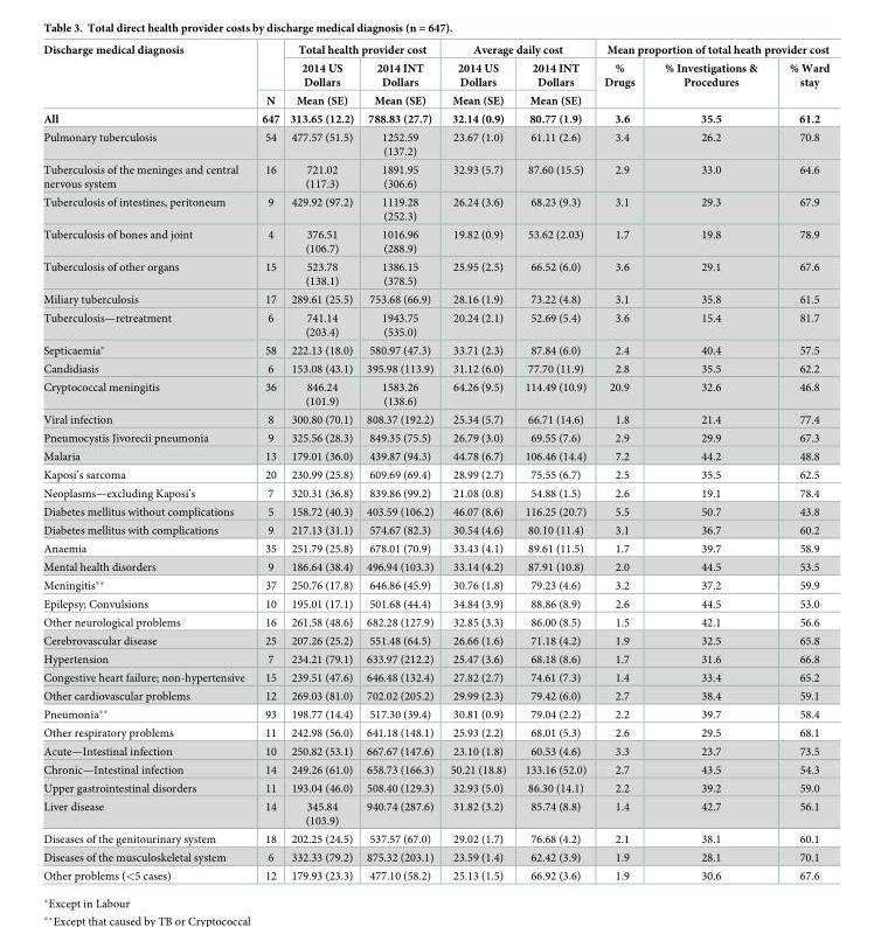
<table><thead><tr><td rowspan="3">Discharge medical diagnosis</td><td rowspan="3">N</td><td colspan="2">Total health provider cost</td><td colspan="2">Average daily cost</td><td colspan="3">Mean proportion of total heath provider cost</td></tr><tr><td rowspan="2">2014 US Dollars Mean (SE)</td><td rowspan="2">2014 INT Dollars Mean (SE)</td><td rowspan="2">2014 US Dollars Mean (SE)</td><td rowspan="2">2014 INT Dollars Mean (SE)</td><td rowspan="2">% Drugs</td><td rowspan="2">% Investigations &amp; Procedures</td><td rowspan="2">% Ward stay</td></tr><tr></tr></thead><tbody><tr><td>All</td><td>647</td><td>313.65 (12.2)</td><td>788.83 (27.7)</td><td>32.14 (0.9)</td><td>80.77 (1.9)</td><td>3.6</td><td>35.5</td><td>61.2</td></tr><tr><td>Pulmonary tuberculosis</td><td>54</td><td>477.57 (51.5)</td><td>1252.59 (137.2)</td><td>23.67 (1.0)</td><td>61.11 (2.6)</td><td>3.4</td><td>26.2</td><td>70.8</td></tr><tr><td>Tuberculosis of the meninges and central nervous system</td><td>16</td><td>721.02 (117.3)</td><td>1891.95 (306.6)</td><td>32.93 (5.7)</td><td>87.60 (15.5)</td><td>2.9</td><td>33.0</td><td>64.6</td></tr><tr><td>Tuberculosis of intestines, peritoneum</td><td>9</td><td>429.92 (97.2)</td><td>1119.28 (252.3)</td><td>26.24 (3.6)</td><td>68.23 (9.3)</td><td>3.1</td><td>29.3</td><td>67.9</td></tr><tr><td>Tuberculosis of bones and joint</td><td>4</td><td>376.51 (106.7)</td><td>1016.96 (288.9)</td><td>19.82 (0.9)</td><td>53.62 (2.03)</td><td>1.7</td><td>19.8</td><td>78.9</td></tr><tr><td>Tuberculosis of other organs</td><td>15</td><td>523.78 (138.1)</td><td>1386.15 (378.5)</td><td>25.95 (2.5)</td><td>66.52 (6.0)</td><td>3.6</td><td>29.1</td><td>67.6</td></tr><tr><td>Miliary tuberculosis</td><td>17</td><td>289.61 (25.5)</td><td>753.68 (66.9)</td><td>28.16 (1.9)</td><td>73.22 (4.8)</td><td>3.1</td><td>35.8</td><td>61.5</td></tr><tr><td>Tuberculosis—retreatment</td><td>6</td><td>741.14 (203.4)</td><td>1943.75 (535.0)</td><td>20.24 (2.1)</td><td>52.69 (5.4)</td><td>3.6</td><td>15.4</td><td>81.7</td></tr><tr><td>Septicaemia*</td><td>58</td><td>222.13 (18.0)</td><td>580.97 (47.3)</td><td>33.71 (2.3)</td><td>87.84 (6.0)</td><td>2.4</td><td>40.4</td><td>57.5</td></tr><tr><td>Candidiasis</td><td>6</td><td>153.08 (43.1)</td><td>395.98 (113.9)</td><td>31.12 (6.0)</td><td>77.70 (11.9)</td><td>2.8</td><td>35.5</td><td>62.2</td></tr><tr><td>Cryptococcal meningitis</td><td>36</td><td>846.24 (101.9)</td><td>1583.26 (138.6)</td><td>64.26 (9.5)</td><td>114.49 (10.9)</td><td>20.9</td><td>32.6</td><td>46.8</td></tr><tr><td>Viral infection</td><td>8</td><td>300.80 (70.1)</td><td>808.37 (192.2)</td><td>25.34 (5.7)</td><td>66.71 (14.6)</td><td>1.8</td><td>21.4</td><td>77.4</td></tr><tr><td>Pneumocystis Jivorecii pneumonia</td><td>9</td><td>325.56 (28.3)</td><td>849.35 (75.5)</td><td>26.79 (3.0)</td><td>69.55 (7.6)</td><td>2.9</td><td>29.9</td><td>67.3</td></tr><tr><td>Malaria</td><td>13</td><td>179.01 (36.0)</td><td>439.87 (94.3)</td><td>44.78 (6.7)</td><td>106.46 (14.4)</td><td>7.2</td><td>44.2</td><td>48.8</td></tr><tr><td>Kaposi’s sarcoma</td><td>20</td><td>230.99 (25.8)</td><td>609.69 (69.4)</td><td>28.99 (2.7)</td><td>75.55 (6.7)</td><td>2.5</td><td>35.5</td><td>62.5</td></tr><tr><td>Neoplasms—excluding Kaposi’s</td><td>7</td><td>320.31 (36.8)</td><td>839.86 (99.2)</td><td>21.08 (0.8)</td><td>54.88 (1.5)</td><td>2.6</td><td>19.1</td><td>78.4</td></tr><tr><td>Diabetes mellitus without complications</td><td>5</td><td>158.72 (40.3)</td><td>403.59 (106.2)</td><td>46.07 (8.6)</td><td>116.25 (20.7)</td><td>5.5</td><td>50.7</td><td>43.8</td></tr><tr><td>Diabetes mellitus with complications</td><td>9</td><td>217.13 (31.1)</td><td>574.67 (82.3)</td><td>30.54 (4.6)</td><td>80.10 (11.4)</td><td>3.1</td><td>36.7</td><td>60.2</td></tr><tr><td>Anaemia</td><td>35</td><td>251.79 (25.8)</td><td>678.01 (70.9)</td><td>33.43 (4.1)</td><td>89.61 (11.5)</td><td>1.7</td><td>39.7</td><td>58.9</td></tr><tr><td>Mental health disorders</td><td>9</td><td>186.64 (38.4)</td><td>496.94 (103.3)</td><td>33.14 (4.2)</td><td>87.91 (10.8)</td><td>2.0</td><td>44.5</td><td>53.5</td></tr><tr><td>Meningitis**</td><td>37</td><td>250.76 (17.8)</td><td>646.86 (45.9)</td><td>30.76 (1.8)</td><td>79.23 (4.6)</td><td>3.2</td><td>37.2</td><td>59.9</td></tr><tr><td>Epilepsy; Convulsions</td><td>10</td><td>195.01 (17.1)</td><td>501.68 (44.4)</td><td>34.84 (3.9)</td><td>88.86 (8.9)</td><td>2.6</td><td>44.5</td><td>53.0</td></tr><tr><td>Other neurological problems</td><td>16</td><td>261.58 (48.6)</td><td>682.28 (127.9)</td><td>32.85 (3.3)</td><td>86.00 (8.5)</td><td>1.5</td><td>42.1</td><td>56.6</td></tr><tr><td>Cerebrovascular disease</td><td>25</td><td>207.26 (25.2)</td><td>551.48 (64.5)</td><td>26.66 (1.6)</td><td>71.18 (4.2)</td><td>1.9</td><td>32.5</td><td>65.8</td></tr><tr><td>Hypertension</td><td>7</td><td>234.21 (79.1)</td><td>633.97 (212.2)</td><td>25.47 (3.6)</td><td>68.18 (8.6)</td><td>1.7</td><td>31.6</td><td>66.8</td></tr><tr><td>Congestive heart failure; non-hypertensive</td><td>15</td><td>239.51 (47.6)</td><td>646.48 (132.4)</td><td>27.82 (2.7)</td><td>74.61 (7.3)</td><td>1.4</td><td>33.4</td><td>65.2</td></tr><tr><td>Other cardiovascular problems</td><td>12</td><td>269.03 (81.0)</td><td>702.02 (205.2)</td><td>29.99 (2.3)</td><td>79.42 (6.0)</td><td>2.7</td><td>38.4</td><td>59.1</td></tr><tr><td>Pneumonia**</td><td>93</td><td>198.77 (14.4)</td><td>517.30 (39.4)</td><td>30.81 (0.9)</td><td>79.04 (2.2)</td><td>2.2</td><td>39.7</td><td>58.4</td></tr><tr><td>Other respiratory problems</td><td>11</td><td>242.98 (56.0)</td><td>641.18 (148.1)</td><td>25.93 (2.2)</td><td>68.01 (5.3)</td><td>2.6</td><td>29.5</td><td>68.1</td></tr><tr><td>Acute—Intestinal infection</td><td>10</td><td>250.82 (53.1)</td><td>667.67 (147.6)</td><td>23.10 (1.8)</td><td>60.53 (4.6)</td><td>3.3</td><td>23.7</td><td>73.5</td></tr><tr><td>Chronic—Intestinal infection</td><td>14</td><td>249.26 (61.0)</td><td>658.73 (166.3)</td><td>50.21 (18.8)</td><td>133.16 (52.0)</td><td>2.7</td><td>43.5</td><td>54.3</td></tr><tr><td>Upper gastrointestinal disorders</td><td>11</td><td>193.04 (46.0)</td><td>508.40 (129.3)</td><td>32.93 (5.0)</td><td>86.30 (14.1)</td><td>2.2</td><td>39.2</td><td>59.0</td></tr><tr><td>Liver disease</td><td>14</td><td>345.84 (103.9)</td><td>940.74 (287.6)</td><td>31.82 (3.2)</td><td>85.74 (8.8)</td><td>1.4</td><td>42.7</td><td>56.1</td></tr><tr><td>Diseases of the genitourinary system</td><td>18</td><td>202.25 (24.5)</td><td>537.57 (67.0)</td><td>29.02 (1.7)</td><td>76.68 (4.2)</td><td>2.1</td><td>38.1</td><td>60.1</td></tr><tr><td>Diseases of the musculoskeletal system</td><td>6</td><td>332.33 (79.2)</td><td>875.32 (203.1)</td><td>23.59 (1.4)</td><td>62.42 (3.9)</td><td>1.9</td><td>28.1</td><td>70.1</td></tr><tr><td>Other problems (&lt;5 cases)</td><td>12</td><td>179.93 (23.3)</td><td>477.10 (58.2)</td><td>25.13 (1.5)</td><td>66.92 (3.6)</td><td>1.9</td><td>30.6</td><td>67.6</td></tr></tbody></table>